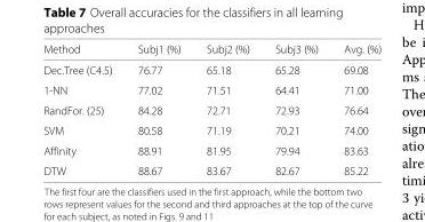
<table><thead><tr><td>Method</td><td>Subj1 (%)</td><td>Subj2 (%)</td><td>Subj3 (%)</td><td>Avg. (%)</td></tr></thead><tbody><tr><td>Dec.Tree (C4.5)</td><td>76.77</td><td>65.18</td><td>65.28</td><td>69.08</td></tr><tr><td>1-NN</td><td>77.02</td><td>71.51</td><td>64.41</td><td>71.00</td></tr><tr><td>RandFor. (25)</td><td>84.28</td><td>72.71</td><td>72.93</td><td>76.64</td></tr><tr><td>SVM</td><td>80.58</td><td>71.19</td><td>70.21</td><td>74.00</td></tr><tr><td>Affinity</td><td>88.91</td><td>81.95</td><td>79.94</td><td>83.63</td></tr><tr><td>DTW</td><td>88.67</td><td>83.67</td><td>82.67</td><td>85.22</td></tr></tbody></table>